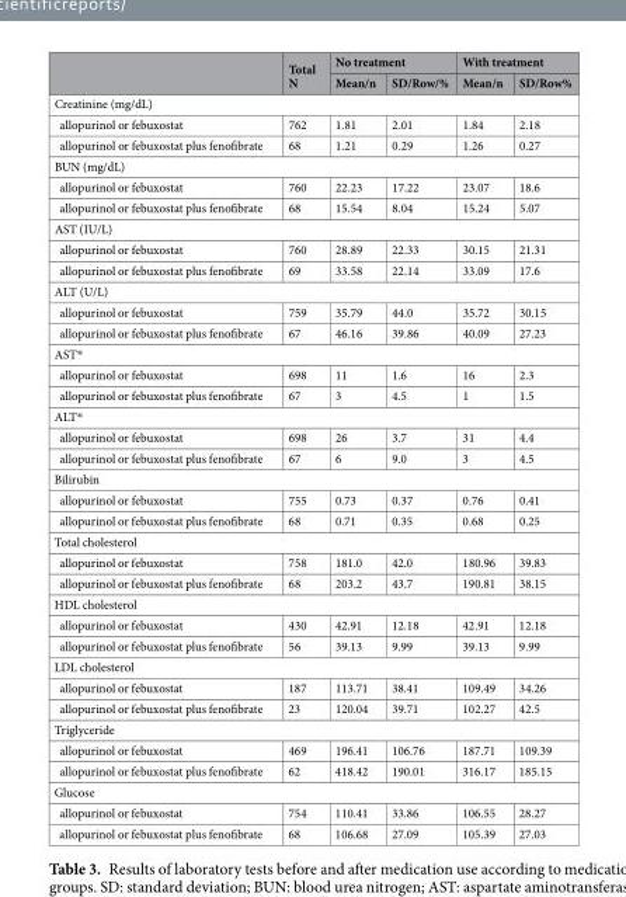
<table><thead><tr><td rowspan="2"></td><td rowspan="2">Total N</td><td colspan="2">No treatment</td><td colspan="2">With treatment</td></tr><tr><td>Mean/n</td><td>SD/Row/%</td><td>Mean/n</td><td>SD/Row%</td></tr></thead><tbody><tr><td colspan="6">Creatinine (mg/dL)</td></tr><tr><td>allopurinol or febuxostat</td><td>762</td><td>1.81</td><td>2.01</td><td>1.84</td><td>2.18</td></tr><tr><td>allopurinol or febuxostat plus fenofibrate</td><td>68</td><td>1.21</td><td>0.29</td><td>1.26</td><td>0.27</td></tr><tr><td colspan="6">BUN (mg/dL)</td></tr><tr><td>allopurinol or febuxostat</td><td>760</td><td>22.23</td><td>17.22</td><td>23.07</td><td>18.6</td></tr><tr><td>allopurinol or febuxostat plus fenofibrate</td><td>68</td><td>15.54</td><td>8.04</td><td>15.24</td><td>5.07</td></tr><tr><td colspan="6">AST (IU/L)</td></tr><tr><td>allopurinol or febuxostat</td><td>760</td><td>28.89</td><td>22.33</td><td>30.15</td><td>21.31</td></tr><tr><td>allopurinol or febuxostat plus fenofibrate</td><td>69</td><td>33.58</td><td>22.14</td><td>33.09</td><td>17.6</td></tr><tr><td colspan="6">ALT (U/L)</td></tr><tr><td>allopurinol or febuxostat</td><td>759</td><td>35.79</td><td>44.0</td><td>35.72</td><td>30.15</td></tr><tr><td>allopurinol or febuxostat plus fenofibrate</td><td>67</td><td>46.16</td><td>39.86</td><td>40.09</td><td>27.23</td></tr><tr><td colspan="6">AST*</td></tr><tr><td>allopurinol or febuxostat</td><td>698</td><td>11</td><td>1.6</td><td>16</td><td>2.3</td></tr><tr><td>allopurinol or febuxostat plus fenofibrate</td><td>67</td><td>3</td><td>4.5</td><td>1</td><td>1.5</td></tr><tr><td colspan="6">ALT*</td></tr><tr><td>allopurinol or febuxostat</td><td>698</td><td>26</td><td>3.7</td><td>31</td><td>4.4</td></tr><tr><td>allopurinol or febuxostat plus fenofibrate</td><td>67</td><td>6</td><td>9.0</td><td>3</td><td>4.5</td></tr><tr><td colspan="6">Bilirubin</td></tr><tr><td>allopurinol or febuxostat</td><td>755</td><td>0.73</td><td>0.37</td><td>0.76</td><td>0.41</td></tr><tr><td>allopurinol or febuxostat plus fenofibrate</td><td>68</td><td>0.71</td><td>0.35</td><td>0.68</td><td>0.25</td></tr><tr><td colspan="6">Total cholesterol</td></tr><tr><td>allopurinol or febuxostat</td><td>758</td><td>181.0</td><td>42.0</td><td>180.96</td><td>39.83</td></tr><tr><td>allopurinol or febuxostat plus fenofibrate</td><td>68</td><td>203.2</td><td>43.7</td><td>190.81</td><td>38.15</td></tr><tr><td colspan="6">HDL cholesterol</td></tr><tr><td>allopurinol or febuxostat</td><td>430</td><td>42.91</td><td>12.18</td><td>42.91</td><td>12.18</td></tr><tr><td>allopurinol or febuxostat plus fenofibrate</td><td>56</td><td>39.13</td><td>9.99</td><td>39.13</td><td>9.99</td></tr><tr><td colspan="6">LDL cholesterol</td></tr><tr><td>allopurinol or febuxostat</td><td>187</td><td>113.71</td><td>38.41</td><td>109.49</td><td>34.26</td></tr><tr><td>allopurinol or febuxostat plus fenofibrate</td><td>23</td><td>120.04</td><td>39.71</td><td>102.27</td><td>42.5</td></tr><tr><td colspan="6">Triglyceride</td></tr><tr><td>allopurinol or febuxostat</td><td>469</td><td>196.41</td><td>106.76</td><td>187.71</td><td>109.39</td></tr><tr><td>allopurinol or febuxostat plus fenofibrate</td><td>62</td><td>418.42</td><td>190.01</td><td>316.17</td><td>185.15</td></tr><tr><td colspan="6">Glucose</td></tr><tr><td>allopurinol or febuxostat</td><td>754</td><td>110.41</td><td>33.86</td><td>106.55</td><td>28.27</td></tr><tr><td>allopurinol or febuxostat plus fenofibrate</td><td>68</td><td>106.68</td><td>27.09</td><td>105.39</td><td>27.03</td></tr></tbody></table>